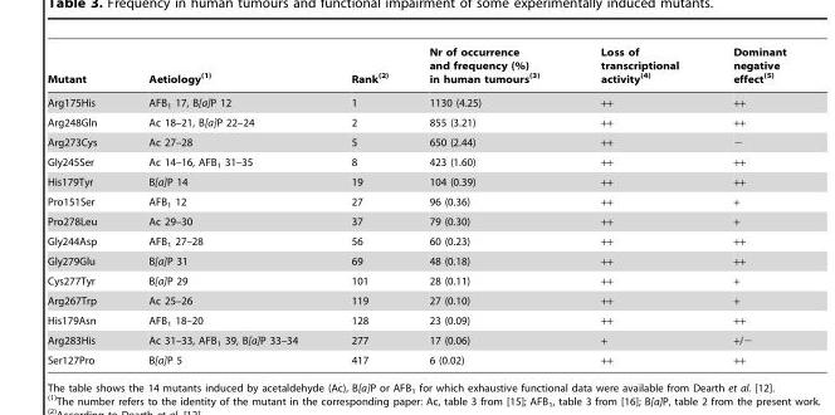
<table><thead><tr><td>Mutant</td><td>Aetiology(1)</td><td>Rank(2)</td><td>Nr of occurrence and frequency (%) in human tumours(3)</td><td>Loss of transcriptional activity(4)</td><td>Dominant negative effect(5)</td></tr></thead><tbody><tr><td>Arg175His</td><td>AFB<sub>1</sub> 17, B[a]P 12</td><td>1</td><td>1130 (4.25)</td><td>++</td><td>++</td></tr><tr><td>Arg248Gln</td><td>Ac 18–21, B[a]P 22–24</td><td>2</td><td>855 (3.21)</td><td>++</td><td>++</td></tr><tr><td>Arg273Cys</td><td>Ac 27–28</td><td>5</td><td>650 (2.44)</td><td>++</td><td>−</td></tr><tr><td>Gly245Ser</td><td>Ac 14–16, AFB<sub>1</sub> 31–35</td><td>8</td><td>423 (1.60)</td><td>++</td><td>++</td></tr><tr><td>His179Tyr</td><td>B[a]P 14</td><td>19</td><td>104 (0.39)</td><td>++</td><td>++</td></tr><tr><td>Pro151Ser</td><td>AFB<sub>1</sub> 12</td><td>27</td><td>96 (0.36)</td><td>++</td><td>+</td></tr><tr><td>Pro278Leu</td><td>Ac 29–30</td><td>37</td><td>79 (0.30)</td><td>++</td><td>+</td></tr><tr><td>Gly244Asp</td><td>AFB<sub>1</sub> 27–28</td><td>56</td><td>60 (0.23)</td><td>++</td><td>++</td></tr><tr><td>Gly279Glu</td><td>B[a]P 31</td><td>69</td><td>48 (0.18)</td><td>++</td><td>++</td></tr><tr><td>Cys277Tyr</td><td>B[a]P 29</td><td>101</td><td>28 (0.11)</td><td>++</td><td>+</td></tr><tr><td>Arg267Trp</td><td>Ac 25–26</td><td>119</td><td>27 (0.10)</td><td>++</td><td>+</td></tr><tr><td>His179Asn</td><td>AFB<sub>1</sub> 18–20</td><td>128</td><td>23 (0.09)</td><td>++</td><td>++</td></tr><tr><td>Arg283His</td><td>Ac 31–33, AFB<sub>1</sub> 39, B[a]P 33–34</td><td>277</td><td>17 (0.06)</td><td>+</td><td>+/−</td></tr><tr><td>Ser127Pro</td><td>B[a]P 5</td><td>417</td><td>6 (0.02)</td><td>++</td><td>++</td></tr></tbody></table>